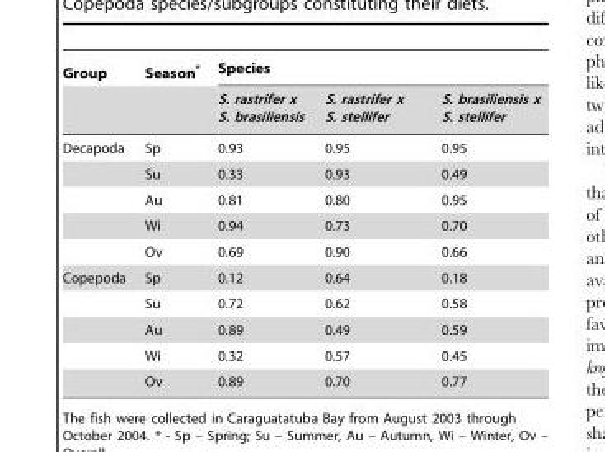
<table><thead><tr><td rowspan="2">Group</td><td rowspan="2">Season*</td><td colspan="3">Species</td></tr><tr><td>S. rastrifer x S. brasiliensis</td><td>S. rastrifer x S. stellifer</td><td>S. brasiliensis x S. stellifer</td></tr></thead><tbody><tr><td rowspan="5">Decapoda</td><td>Sp</td><td>0.93</td><td>0.95</td><td>0.95</td></tr><tr><td>Su</td><td>0.33</td><td>0.93</td><td>0.49</td></tr><tr><td>Au</td><td>0.81</td><td>0.80</td><td>0.95</td></tr><tr><td>Wi</td><td>0.94</td><td>0.73</td><td>0.70</td></tr><tr><td>Ov</td><td>0.69</td><td>0.90</td><td>0.66</td></tr><tr><td rowspan="5">Copepoda</td><td>Sp</td><td>0.12</td><td>0.64</td><td>0.18</td></tr><tr><td>Su</td><td>0.72</td><td>0.62</td><td>0.58</td></tr><tr><td>Au</td><td>0.89</td><td>0.49</td><td>0.59</td></tr><tr><td>Wi</td><td>0.32</td><td>0.57</td><td>0.45</td></tr><tr><td>Ov</td><td>0.89</td><td>0.70</td><td>0.77</td></tr></tbody></table>